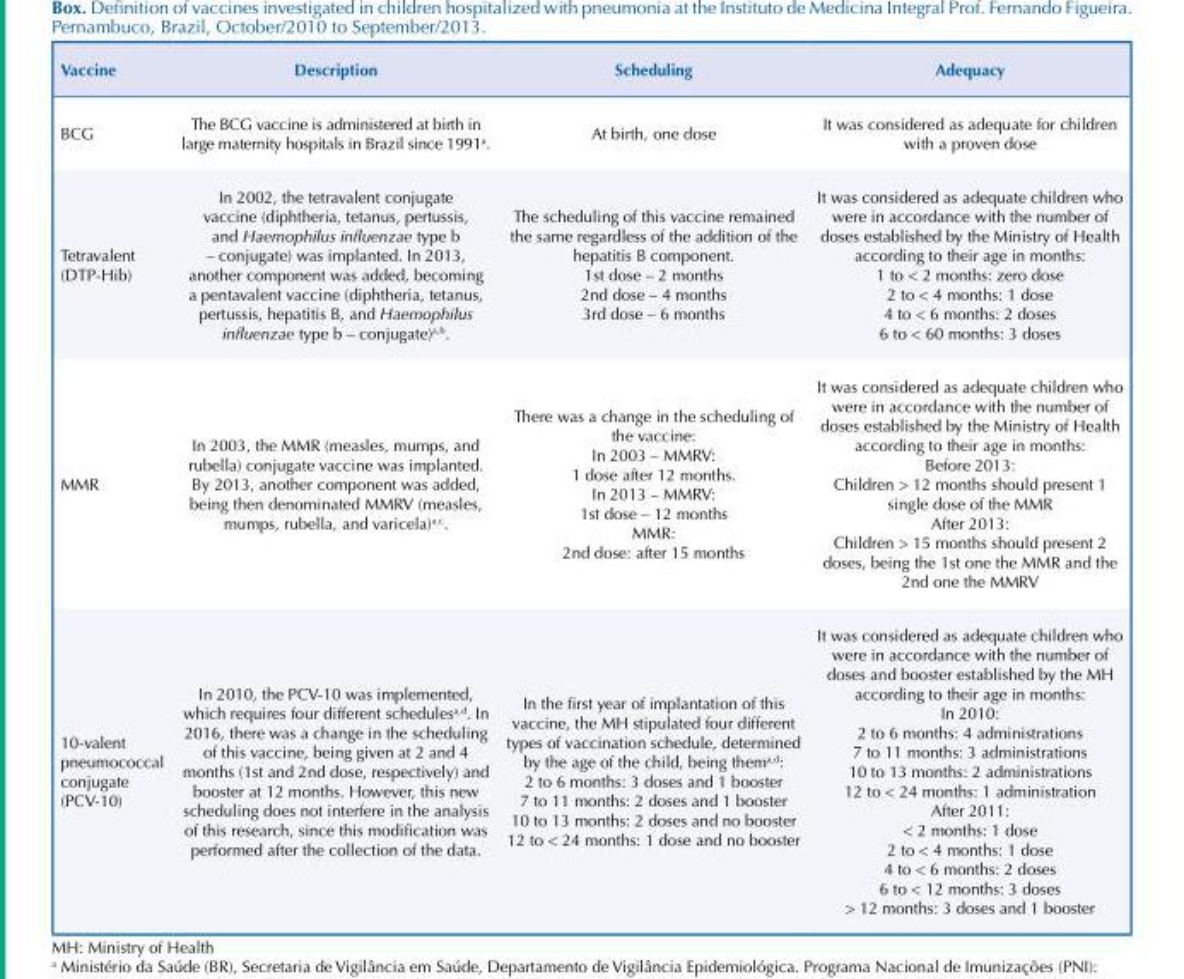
<table><thead><tr><td>Vaccine</td><td>Description</td><td>Scheduling</td><td>Adequacy</td></tr></thead><tbody><tr><td>BCG</td><td>The BCG vaccine is administered at birth in large maternity hospitals in Brazil since 1991<sup>a</sup>.</td><td>At birth, one dose</td><td>It was considered as adequate for children with a proven dose</td></tr><tr><td>Tetravalent (DTP-Hib)</td><td>In 2002, the tetravalent conjugate vaccine (diphtheria, tetanus, pertussis, and Haemophilus influenzae type b – conjugate) was implanted. In 2013, another component was added, becoming a pentavalent vaccine (diphtheria, tetanus, pertussis, hepatitis B, and Haemophilus influenzae type b – conjugate)<sup>a</sup>,<sup>b</sup>.</td><td>The scheduling of this vaccine remained the same regardless of the addition of the hepatitis B component. 1st dose – 2 months 2nd dose – 4 months 3rd dose – 6 months</td><td>It was considered as adequate children who were in accordance with the number of doses established by the Ministry of Health according to their age in months: 1 to &lt; 2 months: zero dose 2 to &lt; 4 months: 1 dose 4 to &lt; 6 months: 2 doses 6 to &lt; 60 months: 3 doses</td></tr><tr><td>MMR</td><td>In 2003, the MMR (measles, mumps, and rubella) conjugate vaccine was implanted. By 2013, another component was added, being then denominated MMRV (measles, mumps, rubella, and varicela)<sup>a</sup>,<sup>c</sup>.</td><td>There was a change in the scheduling of the vaccine: In 2003 – MMRV: 1 dose after 12 months. In 2013 – MMRV: 1st dose – 12 months MMR: 2nd dose: after 15 months</td><td>It was considered as adequate children who were in accordance with the number of doses established by the Ministry of Health according to their age in months: Before 2013: Children &gt; 12 months should present 1 single dose of the MMR After 2013: Children &gt; 15 months should present 2 doses, being the 1st one the MMR and the 2nd one the MMRV</td></tr><tr><td>10-valent pneumococcal conjugate (PCV-10)</td><td>In 2010, the PCV-10 was implemented, which requires four different schedules<sup>a</sup>,<sup>d</sup>. In 2016, there was a change in the scheduling of this vaccine, being given at 2 and 4 months (1st and 2nd dose, respectively) and booster at 12 months. However, this new scheduling does not interfere in the analysis of this research, since this modification was performed after the collection of the data.</td><td>In the first year of implantation of this vaccine, the MH stipulated four different types of vaccination schedule, determined by the age of the child, being them<sup>a</sup>,<sup>d</sup>: 2 to 6 months: 3 doses and 1 booster 7 to 11 months: 2 doses and 1 booster 10 to 13 months: 2 doses and no booster 12 to &lt; 24 months: 1 dose and no booster</td><td>It was considered as adequate children who were in accordance with the number of doses and booster established by the MH according to their age in months: In 2010: 2 to 6 months: 4 administrations 7 to 11 months: 3 administrations 10 to 13 months: 2 administrations 12 to &lt; 24 months: 1 administration After 2011: &lt; 2 months: 1 dose 2 to &lt; 4 months: 1 dose 4 to &lt; 6 months: 2 doses 6 to &lt; 12 months: 3 doses &gt; 12 months: 3 doses and 1 booster</td></tr></tbody></table>